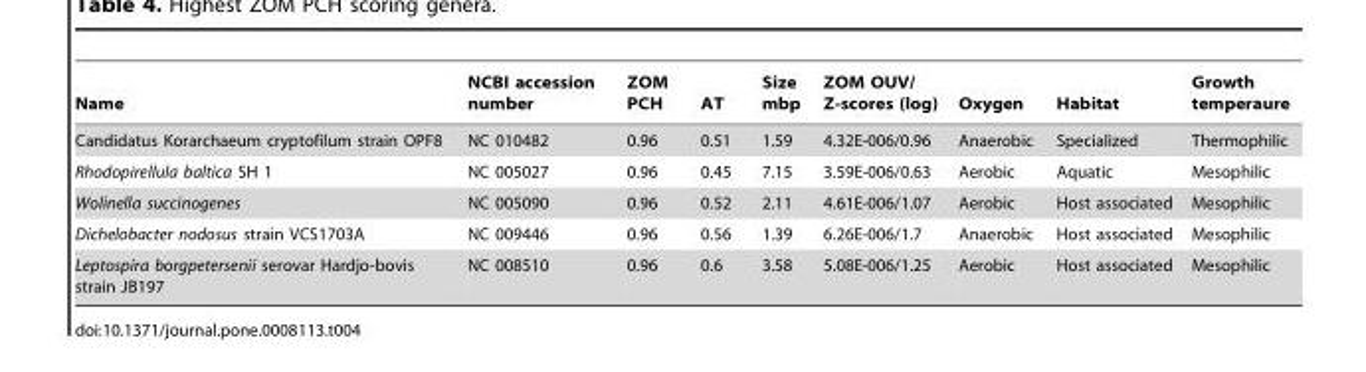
<table><thead><tr><td>Name</td><td>NCBI accession number</td><td>ZOM PCH</td><td>AT</td><td>Size mbp</td><td>ZOM OUV/ Z-scores (log)</td><td>Oxygen</td><td>Habitat</td><td>Growth temperaure</td></tr></thead><tbody><tr><td>Candidatus Korarchaeum cryptofilum strain OPF8</td><td>NC 010482</td><td>0.96</td><td>0.51</td><td>1.59</td><td>4.32E-006/0.96</td><td>Anaerobic</td><td>Specialized</td><td>Thermophilic</td></tr><tr><td>Rhodopirellula baltica SH 1</td><td>NC 005027</td><td>0.96</td><td>0.45</td><td>7.15</td><td>3.59E-006/0.63</td><td>Aerobic</td><td>Aquatic</td><td>Mesophilic</td></tr><tr><td>Wolinella succinogenes</td><td>NC 005090</td><td>0.96</td><td>0.52</td><td>2.11</td><td>4.61E-006/1.07</td><td>Aerobic</td><td>Host associated</td><td>Mesophilic</td></tr><tr><td>Dichelobacter nodosus strain VCS1703A</td><td>NC 009446</td><td>0.96</td><td>0.56</td><td>1.39</td><td>6.26E-006/1.7</td><td>Anaerobic</td><td>Host associated</td><td>Mesophilic</td></tr><tr><td>Leptospira borgpetersenii serovar Hardjo-bovis strain JB197</td><td>NC 008510</td><td>0.96</td><td>0.6</td><td>3.58</td><td>5.08E-006/1.25</td><td>Aerobic</td><td>Host associated</td><td>Mesophilic</td></tr></tbody></table>